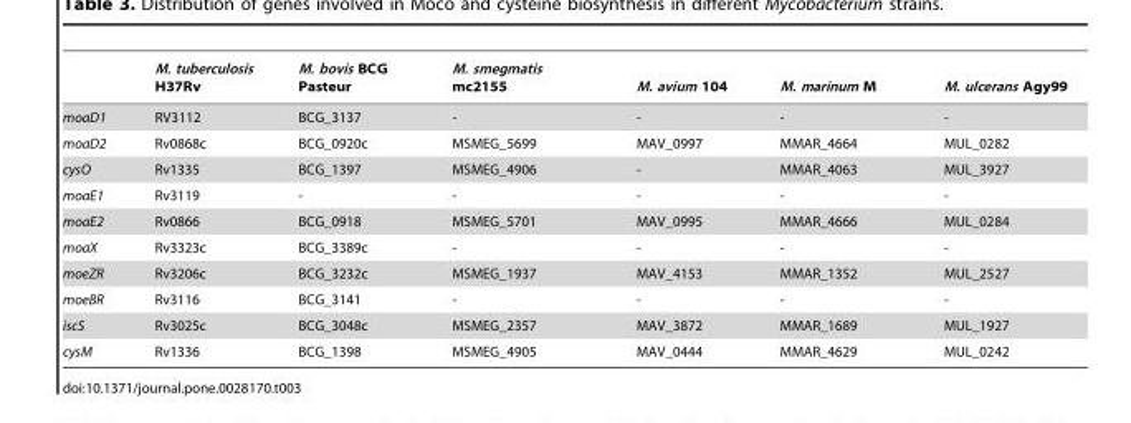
<table><thead><tr><td></td><td>M. tuberculosis H37Rv</td><td>M. bovis BCG Pasteur</td><td>M. smegmatis mc2155</td><td>M. avium 104</td><td>M. marinum M</td><td>M. ulcerans Agy99</td></tr></thead><tbody><tr><td>moaD1</td><td>RV3112</td><td>BCG_3137</td><td>-</td><td>-</td><td>-</td><td>-</td></tr><tr><td>moaD2</td><td>Rv0868c</td><td>BCG_0920c</td><td>MSMEG_5699</td><td>MAV_0997</td><td>MMAR_4664</td><td>MUL_0282</td></tr><tr><td>cysO</td><td>Rv1335</td><td>BCG_1397</td><td>MSMEG_4906</td><td>-</td><td>MMAR_4063</td><td>MUL_3927</td></tr><tr><td>moaE1</td><td>Rv3119</td><td>-</td><td>-</td><td>-</td><td>-</td><td>-</td></tr><tr><td>moaE2</td><td>Rv0866</td><td>BCG_0918</td><td>MSMEG_5701</td><td>MAV_0995</td><td>MMAR_4666</td><td>MUL_0284</td></tr><tr><td>moaX</td><td>Rv3323c</td><td>BCG_3389c</td><td>-</td><td>-</td><td>-</td><td>-</td></tr><tr><td>moeZR</td><td>Rv3206c</td><td>BCG_3232c</td><td>MSMEG_1937</td><td>MAV_4153</td><td>MMAR_1352</td><td>MUL_2527</td></tr><tr><td>moeBR</td><td>Rv3116</td><td>BCG_3141</td><td>-</td><td>-</td><td>-</td><td>-</td></tr><tr><td>iscS</td><td>Rv3025c</td><td>BCG_3048c</td><td>MSMEG_2357</td><td>MAV_3872</td><td>MMAR_1689</td><td>MUL_1927</td></tr><tr><td>cysM</td><td>Rv1336</td><td>BCG_1398</td><td>MSMEG_4905</td><td>MAV_0444</td><td>MMAR_4629</td><td>MUL_0242</td></tr></tbody></table>